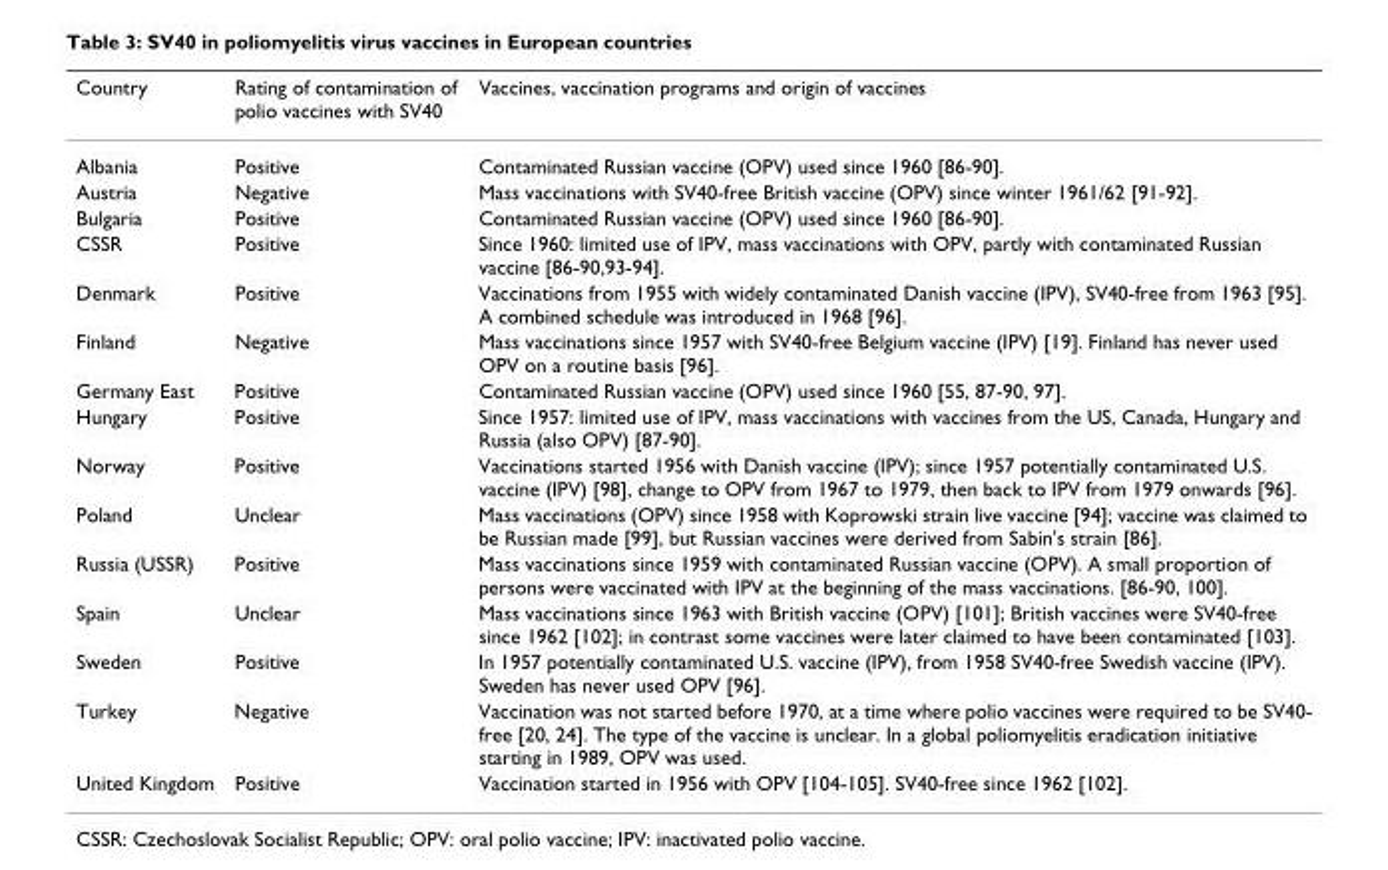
<table><thead><tr><td>Country</td><td>Rating of contamination of polio vaccines with SV40</td><td>Vaccines, vaccination programs and origin of vaccines</td></tr></thead><tbody><tr><td>Albania</td><td>Positive</td><td>Contaminated Russian vaccine (OPV) used since 1960 [86-90].</td></tr><tr><td>Austria</td><td>Negative</td><td>Mass vaccinations with SV40-free British vaccine (OPV) since winter 1961/62 [91-92].</td></tr><tr><td>Bulgaria</td><td>Positive</td><td>Contaminated Russian vaccine (OPV) used since 1960 [86-90].</td></tr><tr><td>CSSR</td><td>Positive</td><td>Since 1960: limited use of IPV, mass vaccinations with OPV, partly with contaminated Russian vaccine [86-90,93-94].</td></tr><tr><td>Denmark</td><td>Positive</td><td>Vaccinations from 1955 with widely contaminated Danish vaccine (IPV), SV40-free from 1963 [95]. A combined schedule was introduced in 1968 [96].</td></tr><tr><td>Finland</td><td>Negative</td><td>Mass vaccinations since 1957 with SV40-free Belgium vaccine (IPV) [19]. Finland has never used OPV on a routine basis [96].</td></tr><tr><td>Germany East</td><td>Positive</td><td>Contaminated Russian vaccine (OPV) used since 1960 [55, 87-90, 97].</td></tr><tr><td>Hungary</td><td>Positive</td><td>Since 1957: limited use of IPV, mass vaccinations with vaccines from the US, Canada, Hungary and Russia (also OPV) [87-90].</td></tr><tr><td>Norway</td><td>Positive</td><td>Vaccinations started 1956 with Danish vaccine (IPV); since 1957 potentially contaminated U.S. vaccine (IPV) [98], change to OPV from 1967 to 1979, then back to IPV from 1979 onwards [96].</td></tr><tr><td>Poland</td><td>Unclear</td><td>Mass vaccinations (OPV) since 1958 with Koprowski strain live vaccine [94]; vaccine was claimed to be Russian made [99], but Russian vaccines were derived from Sabin&#x27;s strain [86].</td></tr><tr><td>Russia (USSR)</td><td>Positive</td><td>Mass vaccinations since 1959 with contaminated Russian vaccine (OPV). A small proportion of persons were vaccinated with IPV at the beginning of the mass vaccinations. [86-90, 100].</td></tr><tr><td>Spain</td><td>Unclear</td><td>Mass vaccinations since 1963 with British vaccine (OPV) [101]; British vaccines were SV40-free since 1962 [102]; in contrast some vaccines were later claimed to have been contaminated [103].</td></tr><tr><td>Sweden</td><td>Positive</td><td>In 1957 potentially contaminated U.S. vaccine (IPV), from 1958 SV40-free Swedish vaccine (IPV). Sweden has never used OPV [96].</td></tr><tr><td>Turkey</td><td>Negative</td><td>Vaccination was not started before 1970, at a time where polio vaccines were required to be SV40- free [20, 24]. The type of the vaccine is unclear. In a global poliomyelitis eradication initiative starting in 1989, OPV was used.</td></tr><tr><td>United Kingdom</td><td>Positive</td><td>Vaccination started in 1956 with OPV [104-105]. SV40-free since 1962 [102].</td></tr></tbody></table>